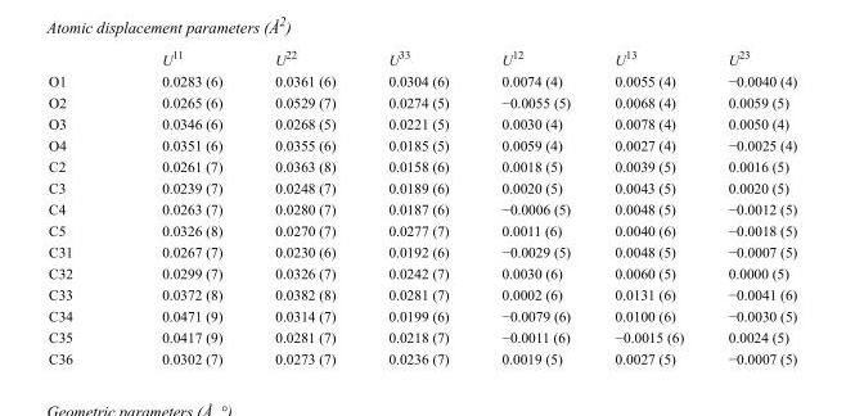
<table><thead><tr><td></td><td>U<sup>11</sup></td><td>U<sup>22</sup></td><td>U<sup>33</sup></td><td>U<sup>12</sup></td><td>U<sup>13</sup></td><td>U<sup>23</sup></td></tr></thead><tbody><tr><td>O1</td><td>0.0283 (6)</td><td>0.0361 (6)</td><td>0.0304 (6)</td><td>0.0074 (4)</td><td>0.0055 (4)</td><td>−0.0040 (4)</td></tr><tr><td>O2</td><td>0.0265 (6)</td><td>0.0529 (7)</td><td>0.0274 (5)</td><td>−0.0055 (5)</td><td>0.0068 (4)</td><td>0.0059 (5)</td></tr><tr><td>O3</td><td>0.0346 (6)</td><td>0.0268 (5)</td><td>0.0221 (5)</td><td>0.0030 (4)</td><td>0.0078 (4)</td><td>0.0050 (4)</td></tr><tr><td>O4</td><td>0.0351 (6)</td><td>0.0355 (6)</td><td>0.0185 (5)</td><td>0.0059 (4)</td><td>0.0027 (4)</td><td>−0.0025 (4)</td></tr><tr><td>C2</td><td>0.0261 (7)</td><td>0.0363 (8)</td><td>0.0158 (6)</td><td>0.0018 (5)</td><td>0.0039 (5)</td><td>0.0016 (5)</td></tr><tr><td>C3</td><td>0.0239 (7)</td><td>0.0248 (7)</td><td>0.0189 (6)</td><td>0.0020 (5)</td><td>0.0043 (5)</td><td>0.0020 (5)</td></tr><tr><td>C4</td><td>0.0263 (7)</td><td>0.0280 (7)</td><td>0.0187 (6)</td><td>−0.0006 (5)</td><td>0.0048 (5)</td><td>−0.0012 (5)</td></tr><tr><td>C5</td><td>0.0326 (8)</td><td>0.0270 (7)</td><td>0.0277 (7)</td><td>0.0011 (6)</td><td>0.0040 (6)</td><td>−0.0018 (5)</td></tr><tr><td>C31</td><td>0.0267 (7)</td><td>0.0230 (6)</td><td>0.0192 (6)</td><td>−0.0029 (5)</td><td>0.0048 (5)</td><td>−0.0007 (5)</td></tr><tr><td>C32</td><td>0.0299 (7)</td><td>0.0326 (7)</td><td>0.0242 (7)</td><td>0.0030 (6)</td><td>0.0060 (5)</td><td>0.0000 (5)</td></tr><tr><td>C33</td><td>0.0372 (8)</td><td>0.0382 (8)</td><td>0.0281 (7)</td><td>0.0002 (6)</td><td>0.0131 (6)</td><td>−0.0041 (6)</td></tr><tr><td>C34</td><td>0.0471 (9)</td><td>0.0314 (7)</td><td>0.0199 (6)</td><td>−0.0079 (6)</td><td>0.0100 (6)</td><td>−0.0030 (5)</td></tr><tr><td>C35</td><td>0.0417 (9)</td><td>0.0281 (7)</td><td>0.0218 (7)</td><td>−0.0011 (6)</td><td>−0.0015 (6)</td><td>0.0024 (5)</td></tr><tr><td>C36</td><td>0.0302 (7)</td><td>0.0273 (7)</td><td>0.0236 (7)</td><td>0.0019 (5)</td><td>0.0027 (5)</td><td>−0.0007 (5)</td></tr></tbody></table>